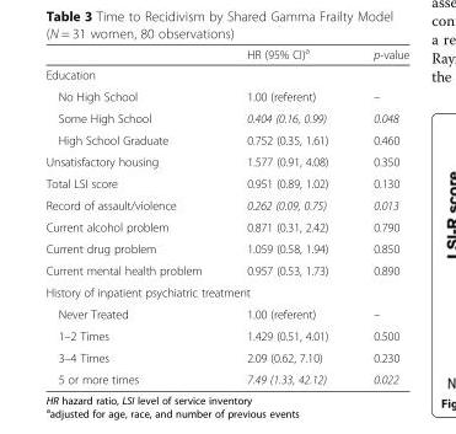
<table><thead><tr><td></td><td>HR (95% CI)<sup>a</sup></td><td>p-value</td></tr></thead><tbody><tr><td colspan="3">Education</td></tr><tr><td>No High School</td><td>1.00 (referent)</td><td>–</td></tr><tr><td>Some High School</td><td>0.404 (0.16, 0.99)</td><td>0.048</td></tr><tr><td>High School Graduate</td><td>0.752 (0.35, 1.61)</td><td>0.460</td></tr><tr><td>Unsatisfactory housing</td><td>1.577 (0.91, 4.08)</td><td>0.350</td></tr><tr><td>Total LSI score</td><td>0.951 (0.89, 1.02)</td><td>0.130</td></tr><tr><td>Record of assault/violence</td><td>0.262 (0.09, 0.75)</td><td>0.013</td></tr><tr><td>Current alcohol problem</td><td>0.871 (0.31, 2.42)</td><td>0.790</td></tr><tr><td>Current drug problem</td><td>1.059 (0.58, 1.94)</td><td>0.850</td></tr><tr><td>Current mental health problem</td><td>0.957 (0.53, 1.73)</td><td>0.890</td></tr><tr><td colspan="3">History of inpatient psychiatric treatment</td></tr><tr><td>Never Treated</td><td>1.00 (referent)</td><td>–</td></tr><tr><td>1–2 Times</td><td>1.429 (0.51, 4.01)</td><td>0.500</td></tr><tr><td>3–4 Times</td><td>2.09 (0.62, 7.10)</td><td>0.230</td></tr><tr><td>5 or more times</td><td>7.49 (1.33, 42.12)</td><td>0.022</td></tr></tbody></table>